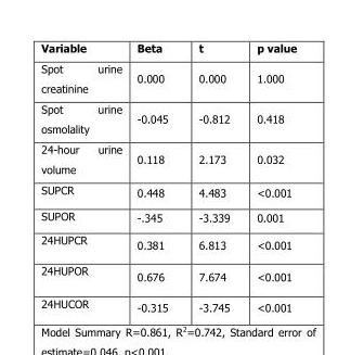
<table><thead><tr><td>Variable</td><td>Beta</td><td>t</td><td>p value</td></tr></thead><tbody><tr><td>Spot urine creatinine</td><td>0.000</td><td>0.000</td><td>1.000</td></tr><tr><td>Spot urine osmolality</td><td>-0.045</td><td>-0.812</td><td>0.418</td></tr><tr><td>24-hour urine volume</td><td>0.118</td><td>2.173</td><td>0.032</td></tr><tr><td>SUPCR</td><td>0.448</td><td>4.483</td><td>&lt;0.001</td></tr><tr><td>SUPOR</td><td>-.345</td><td>-3.339</td><td>0.001</td></tr><tr><td>24HUPCR</td><td>0.381</td><td>6.813</td><td>&lt;0.001</td></tr><tr><td>24HUPOR</td><td>0.676</td><td>7.674</td><td>&lt;0.001</td></tr><tr><td>24HUCOR</td><td>-0.315</td><td>-3.745</td><td>&lt;0.001</td></tr></tbody></table>